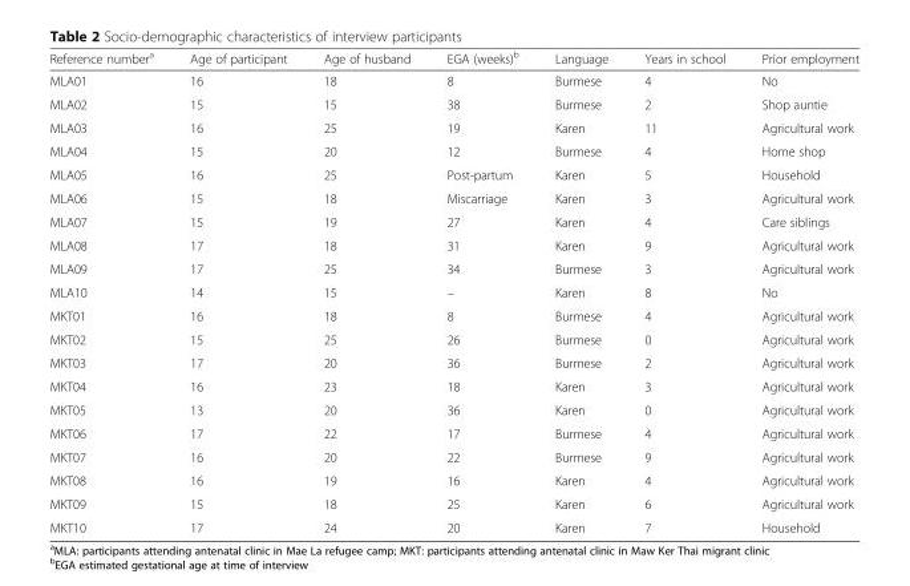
<table><thead><tr><td>Reference number<sup>a</sup></td><td>Age of participant</td><td>Age of husband</td><td>EGA (weeks)<sup>b</sup></td><td>Language</td><td>Years in school</td><td>Prior employment</td></tr></thead><tbody><tr><td>MLA01</td><td>16</td><td>18</td><td>8</td><td>Burmese</td><td>4</td><td>No</td></tr><tr><td>MLA02</td><td>15</td><td>15</td><td>38</td><td>Burmese</td><td>2</td><td>Shop auntie</td></tr><tr><td>MLA03</td><td>16</td><td>25</td><td>19</td><td>Karen</td><td>11</td><td>Agricultural work</td></tr><tr><td>MLA04</td><td>15</td><td>20</td><td>12</td><td>Burmese</td><td>4</td><td>Home shop</td></tr><tr><td>MLA05</td><td>16</td><td>25</td><td>Post-partum</td><td>Karen</td><td>5</td><td>Household</td></tr><tr><td>MLA06</td><td>15</td><td>18</td><td>Miscarriage</td><td>Karen</td><td>3</td><td>Agricultural work</td></tr><tr><td>MLA07</td><td>15</td><td>19</td><td>27</td><td>Karen</td><td>4</td><td>Care siblings</td></tr><tr><td>MLA08</td><td>17</td><td>18</td><td>31</td><td>Karen</td><td>9</td><td>Agricultural work</td></tr><tr><td>MLA09</td><td>17</td><td>25</td><td>34</td><td>Burmese</td><td>3</td><td>Agricultural work</td></tr><tr><td>MLA10</td><td>14</td><td>15</td><td>–</td><td>Karen</td><td>8</td><td>No</td></tr><tr><td>MKT01</td><td>16</td><td>18</td><td>8</td><td>Burmese</td><td>4</td><td>Agricultural work</td></tr><tr><td>MKT02</td><td>15</td><td>25</td><td>26</td><td>Burmese</td><td>0</td><td>Agricultural work</td></tr><tr><td>MKT03</td><td>17</td><td>20</td><td>36</td><td>Burmese</td><td>2</td><td>Agricultural work</td></tr><tr><td>MKT04</td><td>16</td><td>23</td><td>18</td><td>Karen</td><td>3</td><td>Agricultural work</td></tr><tr><td>MKT05</td><td>13</td><td>20</td><td>36</td><td>Karen</td><td>0</td><td>Agricultural work</td></tr><tr><td>MKT06</td><td>17</td><td>22</td><td>17</td><td>Burmese</td><td>4</td><td>Agricultural work</td></tr><tr><td>MKT07</td><td>16</td><td>20</td><td>22</td><td>Burmese</td><td>9</td><td>Agricultural work</td></tr><tr><td>MKT08</td><td>16</td><td>19</td><td>16</td><td>Karen</td><td>4</td><td>Agricultural work</td></tr><tr><td>MKT09</td><td>15</td><td>18</td><td>25</td><td>Karen</td><td>6</td><td>Agricultural work</td></tr><tr><td>MKT10</td><td>17</td><td>24</td><td>20</td><td>Karen</td><td>7</td><td>Household</td></tr></tbody></table>